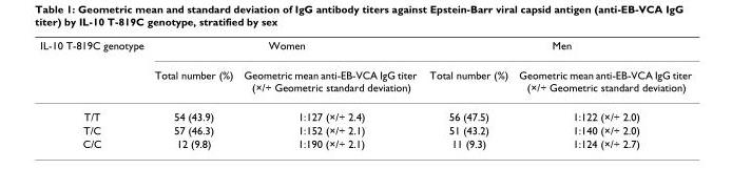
<table><thead><tr><td rowspan="2">IL-10 T-819C genotype</td><td colspan="2">Women</td><td colspan="2">Men</td></tr><tr><td>Total number (%)</td><td>Geometric mean anti-EB-VCA IgG titer (×/÷ Geometric standard deviation)</td><td>Total number (%)</td><td>Geometric mean anti-EB-VCA IgG titer (×/÷ Geometric standard deviation)</td></tr></thead><tbody><tr><td>T/T</td><td>54 (43.9)</td><td>1:127 (×/÷ 2.4)</td><td>56 (47.5)</td><td>1:122 (×/÷ 2.0)</td></tr><tr><td>T/C</td><td>57 (46.3)</td><td>1:152 (×/÷ 2.1)</td><td>51 (43.2)</td><td>1:140 (×/÷ 2.0)</td></tr><tr><td>C/C</td><td>12 (9.8)</td><td>1:190 (×/÷ 2.1)</td><td>11 (9.3)</td><td>1:124 (×/÷ 2.7)</td></tr></tbody></table>